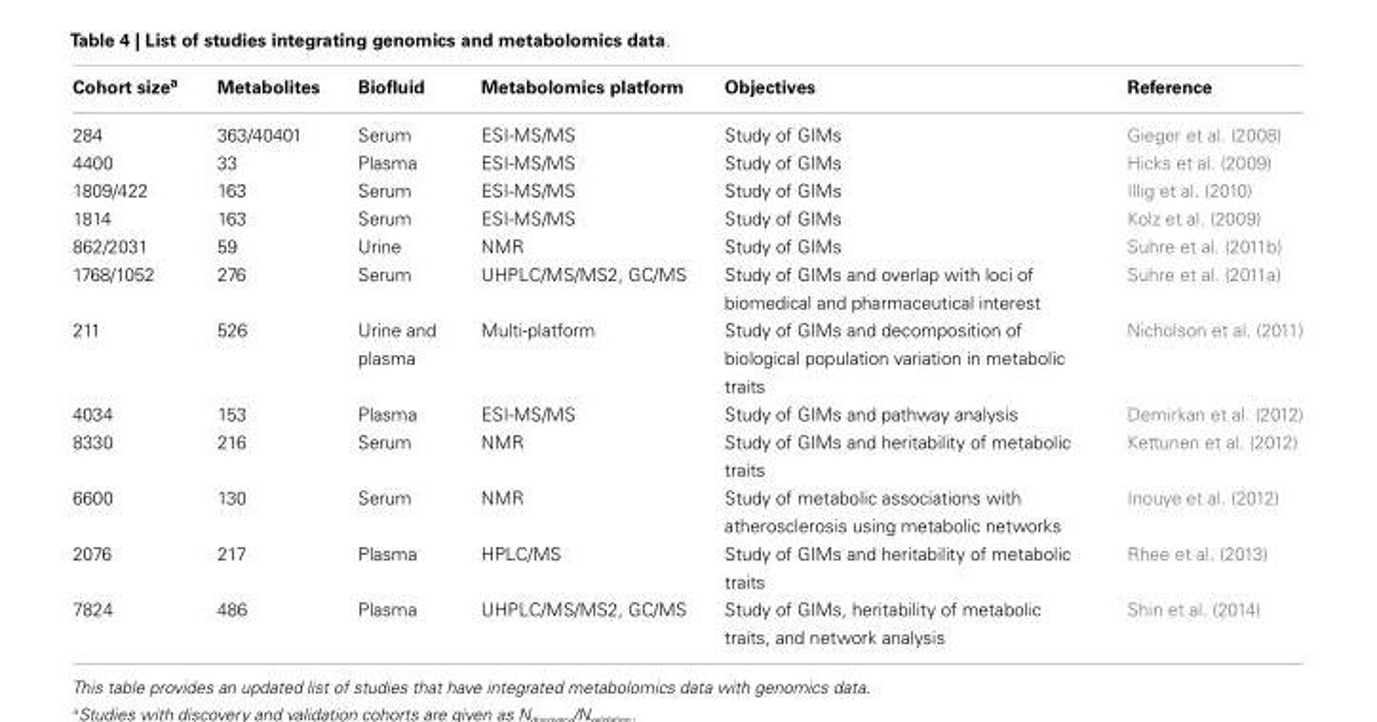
<table><thead><tr><td>Cohort size<sup>a</sup></td><td>Metabolites</td><td>Biofluid</td><td>Metabolomics platform</td><td>Objectives</td><td>Reference</td></tr></thead><tbody><tr><td>284</td><td>363/40401</td><td>Serum</td><td>ESI-MS/MS</td><td>Study of GIMs</td><td>Gieger et al. (2008)</td></tr><tr><td>4400</td><td>33</td><td>Plasma</td><td>ESI-MS/MS</td><td>Study of GIMs</td><td>Hicks et al. (2009)</td></tr><tr><td>1809/422</td><td>163</td><td>Serum</td><td>ESI-MS/MS</td><td>Study of GIMs</td><td>Illig et al. (2010)</td></tr><tr><td>1814</td><td>163</td><td>Serum</td><td>ESI-MS/MS</td><td>Study of GIMs</td><td>Kolz et al. (2009)</td></tr><tr><td>862/2031</td><td>59</td><td>Urine</td><td>NMR</td><td>Study of GIMs</td><td>Suhre et al. (2011b)</td></tr><tr><td>1768/1052</td><td>276</td><td>Serum</td><td>UHPLC/MS/MS2, GC/MS</td><td>Study of GIMs and overlap with loci of biomedical and pharmaceutical interest</td><td>Suhre et al. (2011a)</td></tr><tr><td>211</td><td>526</td><td>Urine and plasma</td><td>Multi-platform</td><td>Study of GIMs and decomposition of biological population variation in metabolic traits</td><td>Nicholson et al. (2011)</td></tr><tr><td>4034</td><td>153</td><td>Plasma</td><td>ESI-MS/MS</td><td>Study of GIMs and pathway analysis</td><td>Demirkan et al. (2012)</td></tr><tr><td>8330</td><td>216</td><td>Serum</td><td>NMR</td><td>Study of GIMs and heritability of metabolic traits</td><td>Kettunen et al. (2012)</td></tr><tr><td>6600</td><td>130</td><td>Serum</td><td>NMR</td><td>Study of metabolic associations with atherosclerosis using metabolic networks</td><td>Inouye et al. (2012)</td></tr><tr><td>2076</td><td>217</td><td>Plasma</td><td>HPLC/MS</td><td>Study of GIMs and heritability of metabolic traits</td><td>Rhee et al. (2013)</td></tr><tr><td>7824</td><td>486</td><td>Plasma</td><td>UHPLC/MS/MS2, GC/MS</td><td>Study of GIMs, heritability of metabolic traits, and network analysis</td><td>Shin et al. (2014)</td></tr></tbody></table>